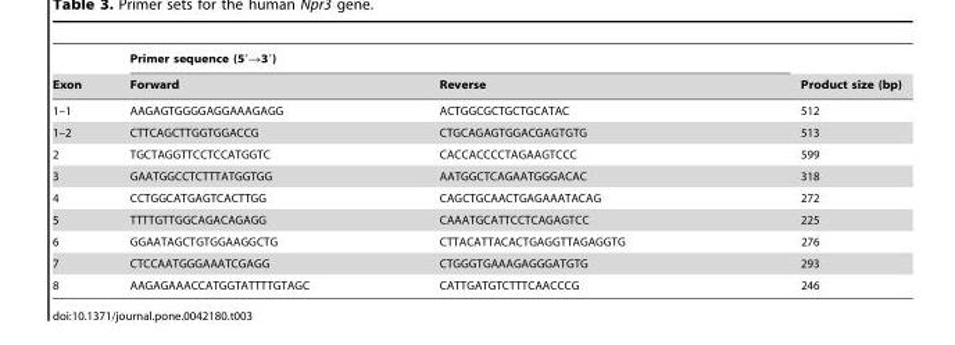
<table><thead><tr><td rowspan="2">Exon</td><td colspan="2">Primer sequence (5′→3′)</td><td rowspan="2">Product size (bp)</td></tr><tr><td>Forward</td><td>Reverse</td></tr></thead><tbody><tr><td>1–1</td><td>AAGAGTGGGGAGGAAAGAGG</td><td>ACTGGCGCTGCTGCATAC</td><td>512</td></tr><tr><td>1–2</td><td>CTTCAGCTTGGTGGACCG</td><td>CTGCAGAGTGGACGAGTGTG</td><td>513</td></tr><tr><td>2</td><td>TGCTAGGTTCCTCCATGGTC</td><td>CACCACCCCTAGAAGTCCC</td><td>599</td></tr><tr><td>3</td><td>GAATGGCCTCTTTATGGTGG</td><td>AATGGCTCAGAATGGGACAC</td><td>318</td></tr><tr><td>4</td><td>CCTGGCATGAGTCACTTGG</td><td>CAGCTGCAACTGAGAAATACAG</td><td>272</td></tr><tr><td>5</td><td>TTTTGTTGGCAGACAGAGG</td><td>CAAATGCATTCCTCAGAGTCC</td><td>225</td></tr><tr><td>6</td><td>GGAATAGCTGTGGAAGGCTG</td><td>CTTACATTACACTGAGGTTAGAGGTG</td><td>276</td></tr><tr><td>7</td><td>CTCCAATGGGAAATCGAGG</td><td>CTGGGTGAAAGAGGGATGTG</td><td>293</td></tr><tr><td>8</td><td>AAGAGAAACCATGGTATTTTGTAGC</td><td>CATTGATGTCTTTCAACCCG</td><td>246</td></tr></tbody></table>